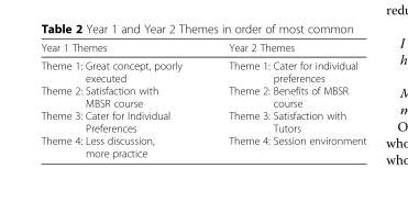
<table><thead><tr><td>Year 1 Themes</td><td>Year 2 Themes</td></tr></thead><tbody><tr><td>Theme 1: Great concept, poorly executed Theme 2: Satisfaction with MBSR course Theme 3: Cater for Individual Preferences Theme 4: Less discussion, more practice</td><td>Theme 1: Cater for individual preferences Theme 2: Benefits of MBSR course Theme 3: Satisfaction with Tutors Theme 4: Session environment</td></tr></tbody></table>